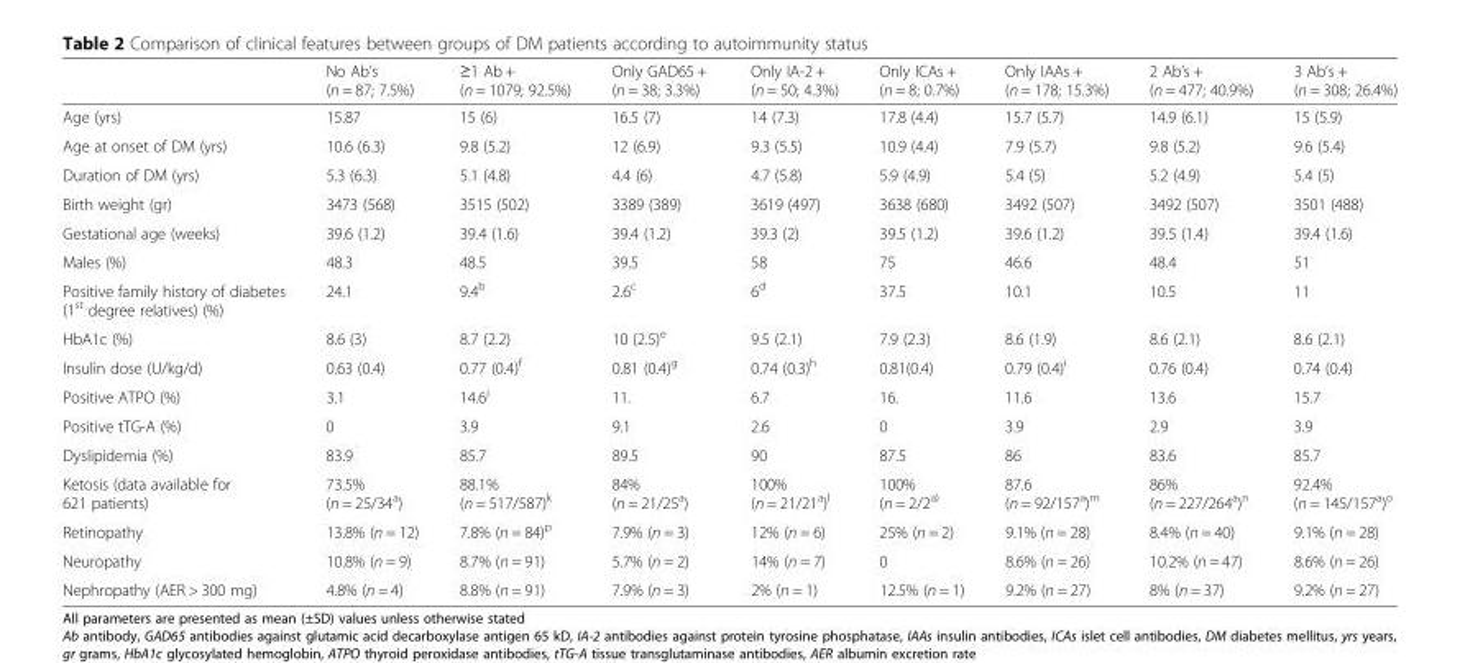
<table><thead><tr><td></td><td>No Ab’s (n = 87; 7.5%)</td><td>≥1 Ab + (n = 1079; 92.5%)</td><td>Only GAD65 + (n = 38; 3.3%)</td><td>Only IA-2 + (n = 50; 4.3%)</td><td>Only ICAs + (n = 8; 0.7%)</td><td>Only IAAs + (n = 178; 15.3%)</td><td>2 Ab’s + (n = 477; 40.9%)</td><td>3 Ab’s + (n = 308; 26.4%)</td></tr></thead><tbody><tr><td>Age (yrs)</td><td>15.87</td><td>15 (6)</td><td>16.5 (7)</td><td>14 (7.3)</td><td>17.8 (4.4)</td><td>15.7 (5.7)</td><td>14.9 (6.1)</td><td>15 (5.9)</td></tr><tr><td>Age at onset of DM (yrs)</td><td>10.6 (6.3)</td><td>9.8 (5.2)</td><td>12 (6.9)</td><td>9.3 (5.5)</td><td>10.9 (4.4)</td><td>7.9 (5.7)</td><td>9.8 (5.2)</td><td>9.6 (5.4)</td></tr><tr><td>Duration of DM (yrs)</td><td>5.3 (6.3)</td><td>5.1 (4.8)</td><td>4.4 (6)</td><td>4.7 (5.8)</td><td>5.9 (4.9)</td><td>5.4 (5)</td><td>5.2 (4.9)</td><td>5.4 (5)</td></tr><tr><td>Birth weight (gr)</td><td>3473 (568)</td><td>3515 (502)</td><td>3389 (389)</td><td>3619 (497)</td><td>3638 (680)</td><td>3492 (507)</td><td>3492 (507)</td><td>3501 (488)</td></tr><tr><td>Gestational age (weeks)</td><td>39.6 (1.2)</td><td>39.4 (1.6)</td><td>39.4 (1.2)</td><td>39.3 (2)</td><td>39.5 (1.2)</td><td>39.6 (1.2)</td><td>39.5 (1.4)</td><td>39.4 (1.6)</td></tr><tr><td>Males (%)</td><td>48.3</td><td>48.5</td><td>39.5</td><td>58</td><td>75</td><td>46.6</td><td>48.4</td><td>51</td></tr><tr><td>Positive family history of diabetes (1<sup>st</sup> degree relatives) (%)</td><td>24.1</td><td>9.4<sup>b</sup></td><td>2.6<sup>c</sup></td><td>6<sup>d</sup></td><td>37.5</td><td>10.1</td><td>10.5</td><td>11</td></tr><tr><td>HbA1c (%)</td><td>8.6 (3)</td><td>8.7 (2.2)</td><td>10 (2.5)<sup>e</sup></td><td>9.5 (2.1)</td><td>7.9 (2.3)</td><td>8.6 (1.9)</td><td>8.6 (2.1)</td><td>8.6 (2.1)</td></tr><tr><td>Insulin dose (U/kg/d)</td><td>0.63 (0.4)</td><td>0.77 (0.4)<sup>f</sup></td><td>0.81 (0.4)<sup>g</sup></td><td>0.74 (0.3)<sup>h</sup></td><td>0.81(0.4)</td><td>0.79 (0.4)<sup>i</sup></td><td>0.76 (0.4)</td><td>0.74 (0.4)</td></tr><tr><td>Positive ATPO (%)</td><td>3.1</td><td>14.6<sup>j</sup></td><td>11.</td><td>6.7</td><td>16.</td><td>11.6</td><td>13.6</td><td>15.7</td></tr><tr><td>Positive tTG-A (%)</td><td>0</td><td>3.9</td><td>9.1</td><td>2.6</td><td>0</td><td>3.9</td><td>2.9</td><td>3.9</td></tr><tr><td>Dyslipidemia (%)</td><td>83.9</td><td>85.7</td><td>89.5</td><td>90</td><td>87.5</td><td>86</td><td>83.6</td><td>85.7</td></tr><tr><td>Ketosis (data available for 621 patients)</td><td>73.5% (n = 25/34<sup>a</sup>)</td><td>88.1% (n = 517/587)<sup>k</sup></td><td>84% (n = 21/25<sup>a</sup>)</td><td>100% (n = 21/21<sup>a</sup>)<sup>l</sup></td><td>100% (n = 2/2<sup>a)</sup></td><td>87.6 (n = 92/157<sup>a</sup>)<sup>m</sup></td><td>86% (n = 227/264<sup>a</sup>)<sup>n</sup></td><td>92.4% (n = 145/157<sup>a</sup>)<sup>o</sup></td></tr><tr><td>Retinopathy</td><td>13.8% (n = 12)</td><td>7.8% (n = 84)<sup>p</sup></td><td>7.9% (n = 3)</td><td>12% (n = 6)</td><td>25% (n = 2)</td><td>9.1% (n = 28)</td><td>8.4% (n = 40)</td><td>9.1% (n = 28)</td></tr><tr><td>Neuropathy</td><td>10.8% (n = 9)</td><td>8.7% (n = 91)</td><td>5.7% (n = 2)</td><td>14% (n = 7)</td><td>0</td><td>8.6% (n = 26)</td><td>10.2% (n = 47)</td><td>8.6% (n = 26)</td></tr><tr><td>Nephropathy (AER &gt; 300 mg)</td><td>4.8% (n = 4)</td><td>8.8% (n = 91)</td><td>7.9% (n = 3)</td><td>2% (n = 1)</td><td>12.5% (n = 1)</td><td>9.2% (n = 27)</td><td>8% (n = 37)</td><td>9.2% (n = 27)</td></tr></tbody></table>